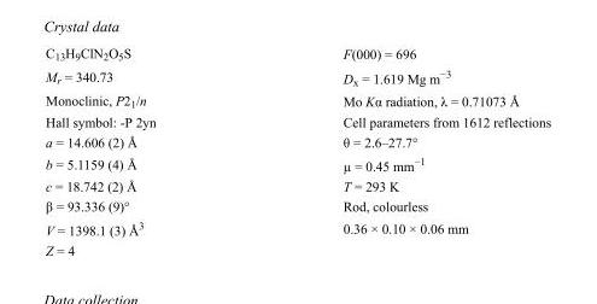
<table><tbody><tr><td>C<sub>13</sub>H<sub>9</sub>ClN<sub>2</sub>O<sub>5</sub>S</td><td>F(000) = 696</td></tr><tr><td>M<sub>r</sub> = 340.73</td><td>D<sub>x</sub> = 1.619 Mg m<sup>−3</sup></td></tr><tr><td>Monoclinic, P2<sub>1</sub>/n</td><td>Mo Kα radiation, λ = 0.71073 Å</td></tr><tr><td>Hall symbol: -P 2yn</td><td>Cell parameters from 1612 reflections</td></tr><tr><td>a = 14.606 (2) Å</td><td>θ = 2.6–27.7°</td></tr><tr><td>b = 5.1159 (4) Å</td><td>µ = 0.45 mm<sup>−1</sup></td></tr><tr><td>c = 18.742 (2) Å</td><td>T = 293 K</td></tr><tr><td>β = 93.336 (9)°</td><td>Rod, colourless</td></tr><tr><td>V = 1398.1 (3) Å<sup>3</sup></td><td>0.36 × 0.10 × 0.06 mm</td></tr><tr><td>Z = 4</td><td></td></tr></tbody></table>